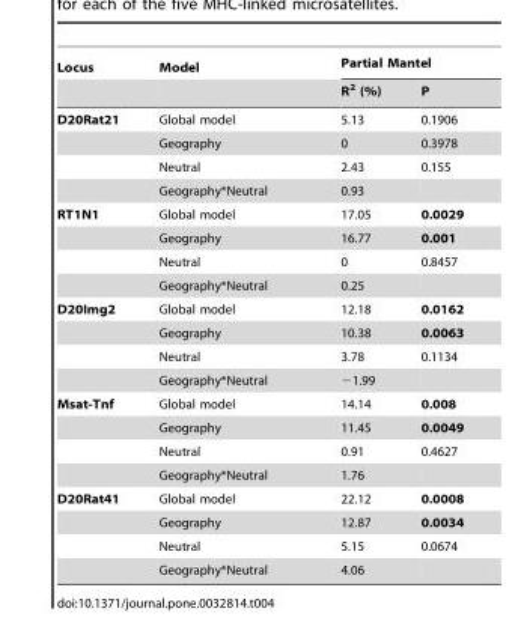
<table><thead><tr><td rowspan="2">Locus</td><td rowspan="2">Model</td><td colspan="2">Partial Mantel</td></tr><tr><td>R<sup>2</sup> (%)</td><td>P</td></tr></thead><tbody><tr><td rowspan="4">D20Rat21</td><td>Global model</td><td>5.13</td><td>0.1906</td></tr><tr><td>Geography</td><td>0</td><td>0.3978</td></tr><tr><td>Neutral</td><td>2.43</td><td>0.155</td></tr><tr><td>Geography*Neutral</td><td>0.93</td><td></td></tr><tr><td rowspan="4">RT1N1</td><td>Global model</td><td>17.05</td><td>0.0029</td></tr><tr><td>Geography</td><td>16.77</td><td>0.001</td></tr><tr><td>Neutral</td><td>0</td><td>0.8457</td></tr><tr><td>Geography*Neutral</td><td>0.25</td><td></td></tr><tr><td rowspan="4">D20Img2</td><td>Global model</td><td>12.18</td><td>0.0162</td></tr><tr><td>Geography</td><td>10.38</td><td>0.0063</td></tr><tr><td>Neutral</td><td>3.78</td><td>0.1134</td></tr><tr><td>Geography*Neutral</td><td>−1.99</td><td></td></tr><tr><td rowspan="4">Msat-Tnf</td><td>Global model</td><td>14.14</td><td>0.008</td></tr><tr><td>Geography</td><td>11.45</td><td>0.0049</td></tr><tr><td>Neutral</td><td>0.91</td><td>0.4627</td></tr><tr><td>Geography*Neutral</td><td>1.76</td><td></td></tr><tr><td rowspan="4">D20Rat41</td><td>Global model</td><td>22.12</td><td>0.0008</td></tr><tr><td>Geography</td><td>12.87</td><td>0.0034</td></tr><tr><td>Neutral</td><td>5.15</td><td>0.0674</td></tr><tr><td>Geography*Neutral</td><td>4.06</td><td></td></tr></tbody></table>